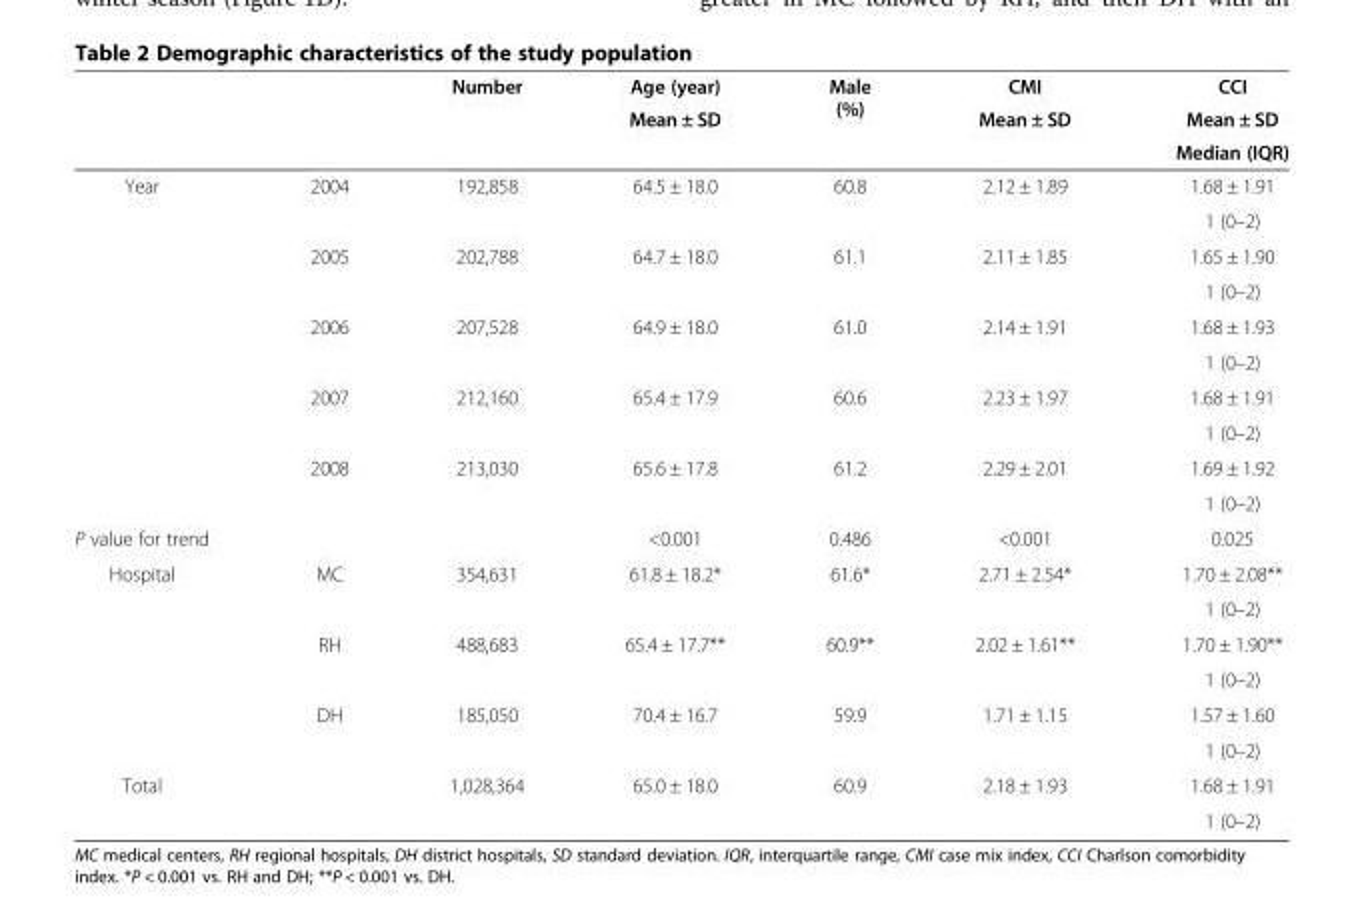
<table><thead><tr><td rowspan="3"></td><td rowspan="3"></td><td rowspan="3">Number</td><td rowspan="3">Age (year) Mean ± SD</td><td rowspan="3">Male (%)</td><td rowspan="3">CMI Mean ± SD</td><td rowspan="3">CCI Mean ± SD Median (IQR)</td></tr><tr></tr><tr></tr></thead><tbody><tr><td rowspan="10">Year</td><td rowspan="2">2004</td><td rowspan="2">192,858</td><td rowspan="2">64.5 ± 18.0</td><td rowspan="2">60.8</td><td rowspan="2">2.12 ± 1.89</td><td>1.68 ± 1.91</td></tr><tr><td>1 (0–2)</td></tr><tr><td rowspan="2">2005</td><td rowspan="2">202,788</td><td rowspan="2">64.7 ± 18.0</td><td rowspan="2">61.1</td><td rowspan="2">2.11 ± 1.85</td><td>1.65 ± 1.90</td></tr><tr><td>1 (0–2)</td></tr><tr><td rowspan="2">2006</td><td rowspan="2">207,528</td><td rowspan="2">64.9 ± 18.0</td><td rowspan="2">61.0</td><td rowspan="2">2.14 ± 1.91</td><td>1.68 ± 1.93</td></tr><tr><td>1 (0–2)</td></tr><tr><td rowspan="2">2007</td><td rowspan="2">212,160</td><td rowspan="2">65.4 ± 17.9</td><td rowspan="2">60.6</td><td rowspan="2">2.23 ± 1.97</td><td>1.68 ± 1.91</td></tr><tr><td>1 (0–2)</td></tr><tr><td rowspan="2">2008</td><td rowspan="2">213,030</td><td rowspan="2">65.6 ± 17.8</td><td rowspan="2">61.2</td><td rowspan="2">2.29 ± 2.01</td><td>1.69 ± 1.92</td></tr><tr><td>1 (0–2)</td></tr><tr><td>P value for trend</td><td></td><td></td><td>&lt;0.001</td><td>0.486</td><td>&lt;0.001</td><td>0.025</td></tr><tr><td rowspan="6">Hospital</td><td rowspan="2">MC</td><td rowspan="2">354,631</td><td rowspan="2">61.8 ± 18.2*</td><td rowspan="2">61.6*</td><td rowspan="2">2.71 ± 2.54*</td><td>1.70 ± 2.08**</td></tr><tr><td>1 (0–2)</td></tr><tr><td rowspan="2">RH</td><td rowspan="2">488,683</td><td rowspan="2">65.4 ± 17.7**</td><td rowspan="2">60.9**</td><td rowspan="2">2.02 ± 1.61**</td><td>1.70 ± 1.90**</td></tr><tr><td>1 (0–2)</td></tr><tr><td rowspan="2">DH</td><td rowspan="2">185,050</td><td rowspan="2">70.4 ± 16.7</td><td rowspan="2">59.9</td><td rowspan="2">1.71 ± 1.15</td><td>1.57 ± 1.60</td></tr><tr><td>1 (0–2)</td></tr><tr><td rowspan="2">Total</td><td></td><td>1,028,364</td><td>65.0 ± 18.0</td><td>60.9</td><td>2.18 ± 1.93</td><td>1.68 ± 1.91</td></tr><tr><td></td><td></td><td></td><td></td><td></td><td>1 (0–2)</td></tr></tbody></table>